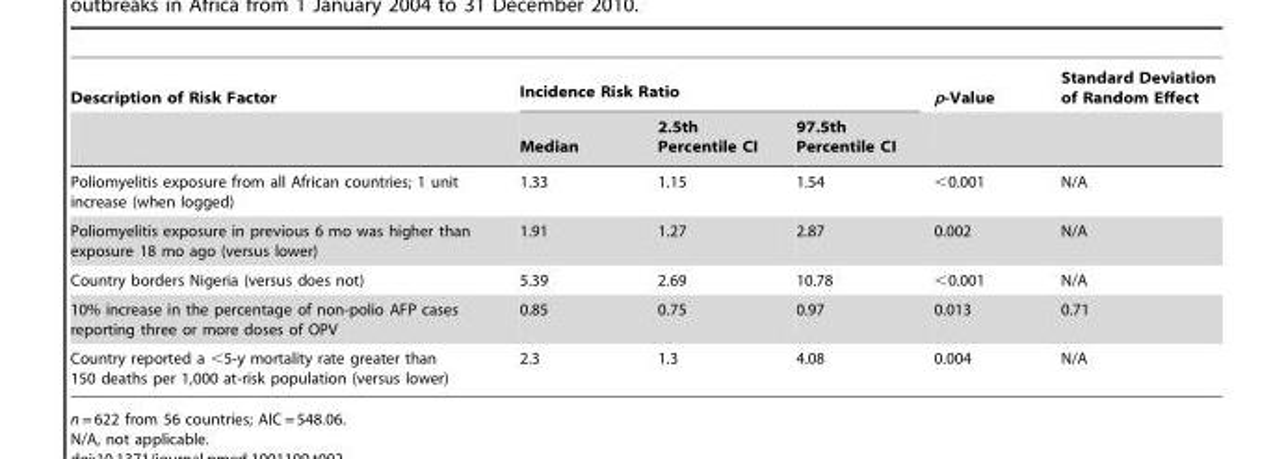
<table><thead><tr><td rowspan="2">Description of Risk Factor</td><td colspan="3">Incidence Risk Ratio</td><td rowspan="2">p-Value</td><td rowspan="2">Standard Deviation of Random Effect</td></tr><tr><td>Median</td><td>2.5th Percentile CI</td><td>97.5th Percentile CI</td></tr></thead><tbody><tr><td>Poliomyelitis exposure from all African countries; 1 unit increase (when logged)</td><td>1.33</td><td>1.15</td><td>1.54</td><td>&lt;0.001</td><td>N/A</td></tr><tr><td>Poliomyelitis exposure in previous 6 mo was higher than exposure 18 mo ago (versus lower)</td><td>1.91</td><td>1.27</td><td>2.87</td><td>0.002</td><td>N/A</td></tr><tr><td>Country borders Nigeria (versus does not)</td><td>5.39</td><td>2.69</td><td>10.78</td><td>&lt;0.001</td><td>N/A</td></tr><tr><td>10% increase in the percentage of non-polio AFP cases reporting three or more doses of OPV</td><td>0.85</td><td>0.75</td><td>0.97</td><td>0.013</td><td>0.71</td></tr><tr><td>Country reported a &lt;5-y mortality rate greater than 150 deaths per 1,000 at-risk population (versus lower)</td><td>2.3</td><td>1.3</td><td>4.08</td><td>0.004</td><td>N/A</td></tr></tbody></table>